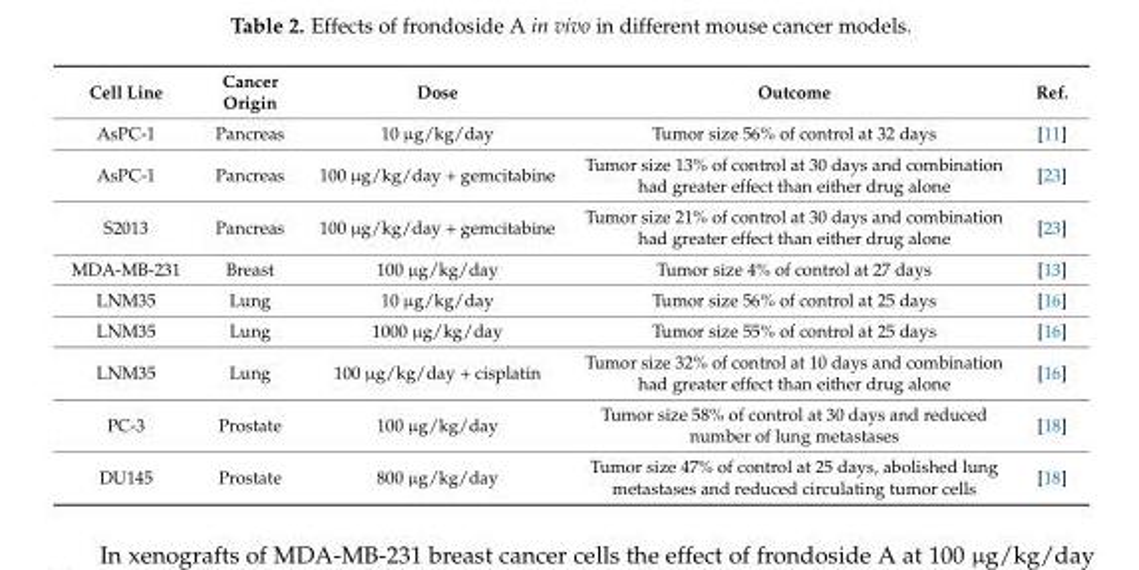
<table><thead><tr><td>Cell Line</td><td>Cancer Origin</td><td>Dose</td><td>Outcome</td><td>Ref.</td></tr></thead><tbody><tr><td>AsPC-1</td><td>Pancreas</td><td>10 µg/kg/day</td><td>Tumor size 56% of control at 32 days</td><td>[11]</td></tr><tr><td>AsPC-1</td><td>Pancreas</td><td>100 µg/kg/day + gemcitabine</td><td>Tumor size 13% of control at 30 days and combination had greater effect than either drug alone</td><td>[23]</td></tr><tr><td>S2013</td><td>Pancreas</td><td>100 µg/kg/day + gemcitabine</td><td>Tumor size 21% of control at 30 days and combination had greater effect than either drug alone</td><td>[23]</td></tr><tr><td>MDA-MB-231</td><td>Breast</td><td>100 µg/kg/day</td><td>Tumor size 4% of control at 27 days</td><td>[13]</td></tr><tr><td>LNM35</td><td>Lung</td><td>10 µg/kg/day</td><td>Tumor size 56% of control at 25 days</td><td>[16]</td></tr><tr><td>LNM35</td><td>Lung</td><td>1000 µg/kg/day</td><td>Tumor size 55% of control at 25 days</td><td>[16]</td></tr><tr><td>LNM35</td><td>Lung</td><td>100 µg/kg/day + cisplatin</td><td>Tumor size 32% of control at 10 days and combination had greater effect than either drug alone</td><td>[16]</td></tr><tr><td>PC-3</td><td>Prostate</td><td>100 µg/kg/day</td><td>Tumor size 58% of control at 30 days and reduced number of lung metastases</td><td>[18]</td></tr><tr><td>DU145</td><td>Prostate</td><td>800 µg/kg/day</td><td>Tumor size 47% of control at 25 days, abolished lung metastases and reduced circulating tumor cells</td><td>[18]</td></tr></tbody></table>